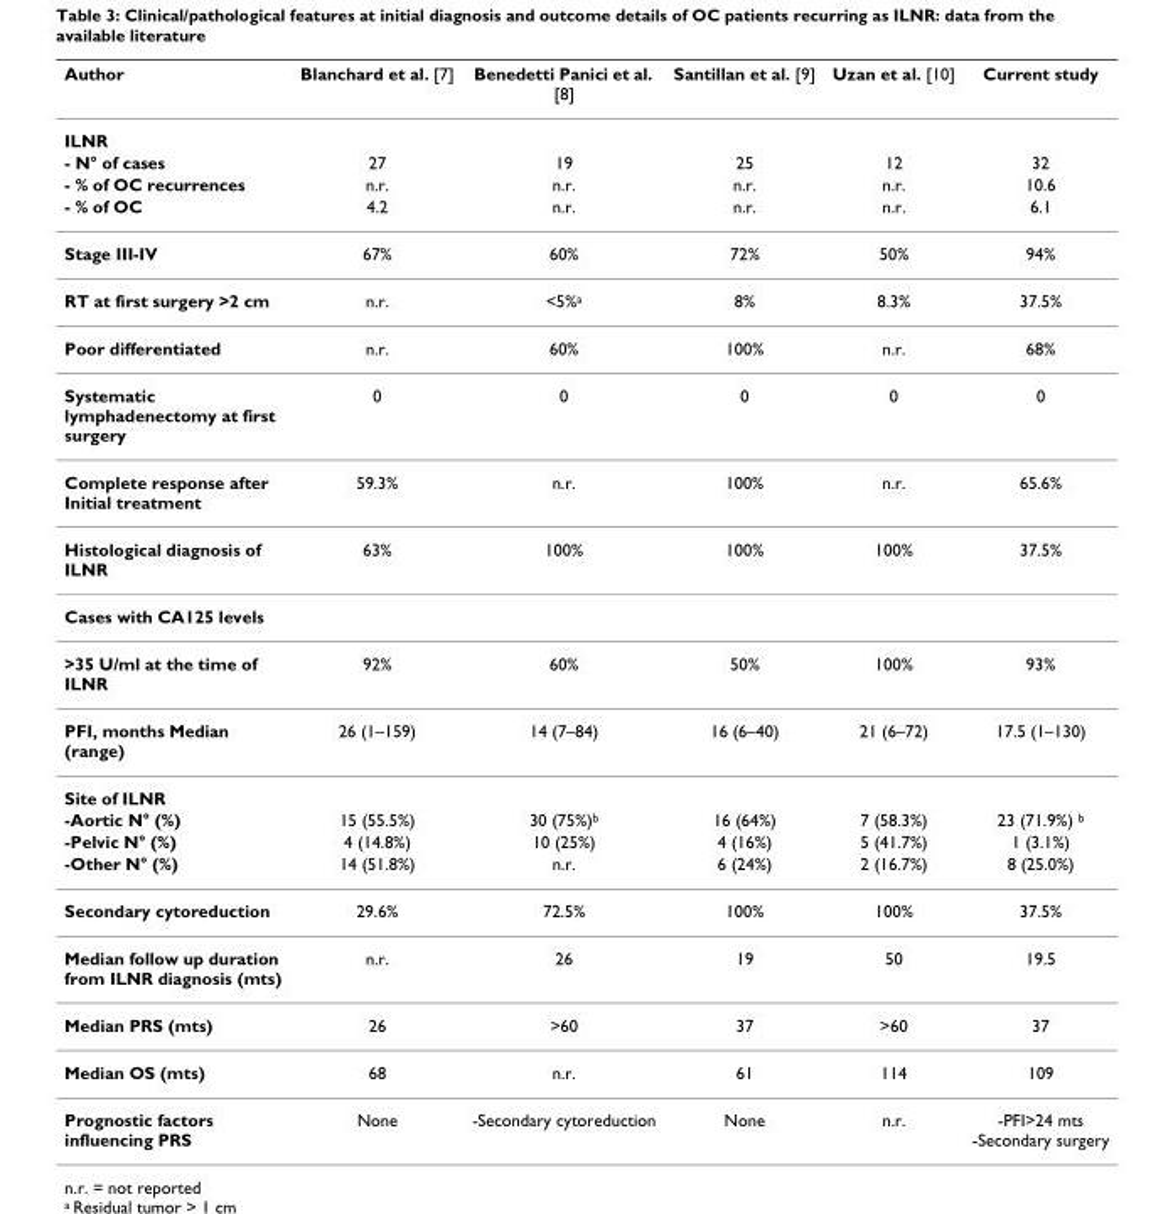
<table><thead><tr><td>Author</td><td>Blanchard et al. [7]</td><td>Benedetti Panici et al. [8]</td><td>Santillan et al. [9]</td><td>Uzan et al. [10]</td><td>Current study</td></tr></thead><tbody><tr><td colspan="6">ILNR</td></tr><tr><td>- N° of cases</td><td>27</td><td>19</td><td>25</td><td>12</td><td>32</td></tr><tr><td>- % of OC recurrences</td><td>n.r.</td><td>n.r.</td><td>n.r.</td><td>n.r.</td><td>10.6</td></tr><tr><td>- % of OC</td><td>4.2</td><td>n.r.</td><td>n.r.</td><td>n.r.</td><td>6.1</td></tr><tr><td>Stage III-IV</td><td>67%</td><td>60%</td><td>72%</td><td>50%</td><td>94%</td></tr><tr><td>RT at first surgery &gt;2 cm</td><td>n.r.</td><td>&lt;5%<sup>a</sup></td><td>8%</td><td>8.3%</td><td>37.5%</td></tr><tr><td>Poor differentiated</td><td>n.r.</td><td>60%</td><td>100%</td><td>n.r.</td><td>68%</td></tr><tr><td>Systematic lymphadenectomy at first surgery</td><td>0</td><td>0</td><td>0</td><td>0</td><td>0</td></tr><tr><td>Complete response after Initial treatment</td><td>59.3%</td><td>n.r.</td><td>100%</td><td>n.r.</td><td>65.6%</td></tr><tr><td>Histological diagnosis of ILNR</td><td>63%</td><td>100%</td><td>100%</td><td>100%</td><td>37.5%</td></tr><tr><td colspan="6">Cases with CA125 levels</td></tr><tr><td>&gt;35 U/ml at the time of ILNR</td><td>92%</td><td>60%</td><td>50%</td><td>100%</td><td>93%</td></tr><tr><td>PFI, months Median (range)</td><td>26 (1–159)</td><td>14 (7–84)</td><td>16 (6–40)</td><td>21 (6–72)</td><td>17.5 (1–130)</td></tr><tr><td colspan="6">Site of ILNR</td></tr><tr><td>-Aortic N° (%)</td><td>15 (55.5%)</td><td>30 (75%)<sup>b</sup></td><td>16 (64%)</td><td>7 (58.3%)</td><td>23 (71.9%) <sup>b</sup></td></tr><tr><td>-Pelvic N° (%)</td><td>4 (14.8%)</td><td>10 (25%)</td><td>4 (16%)</td><td>5 (41.7%)</td><td>1 (3.1%)</td></tr><tr><td>-Other N° (%)</td><td>14 (51.8%)</td><td>n.r.</td><td>6 (24%)</td><td>2 (16.7%)</td><td>8 (25.0%)</td></tr><tr><td>Secondary cytoreduction</td><td>29.6%</td><td>72.5%</td><td>100%</td><td>100%</td><td>37.5%</td></tr><tr><td>Median follow up duration from ILNR diagnosis (mts)</td><td>n.r.</td><td>26</td><td>19</td><td>50</td><td>19.5</td></tr><tr><td>Median PRS (mts)</td><td>26</td><td>&gt;60</td><td>37</td><td>&gt;60</td><td>37</td></tr><tr><td>Median OS (mts)</td><td>68</td><td>n.r.</td><td>61</td><td>114</td><td>109</td></tr><tr><td>Prognostic factors influencing PRS</td><td>None</td><td>-Secondary cytoreduction</td><td>None</td><td>n.r.</td><td>-PFI&gt;24 mts -Secondary surgery</td></tr></tbody></table>